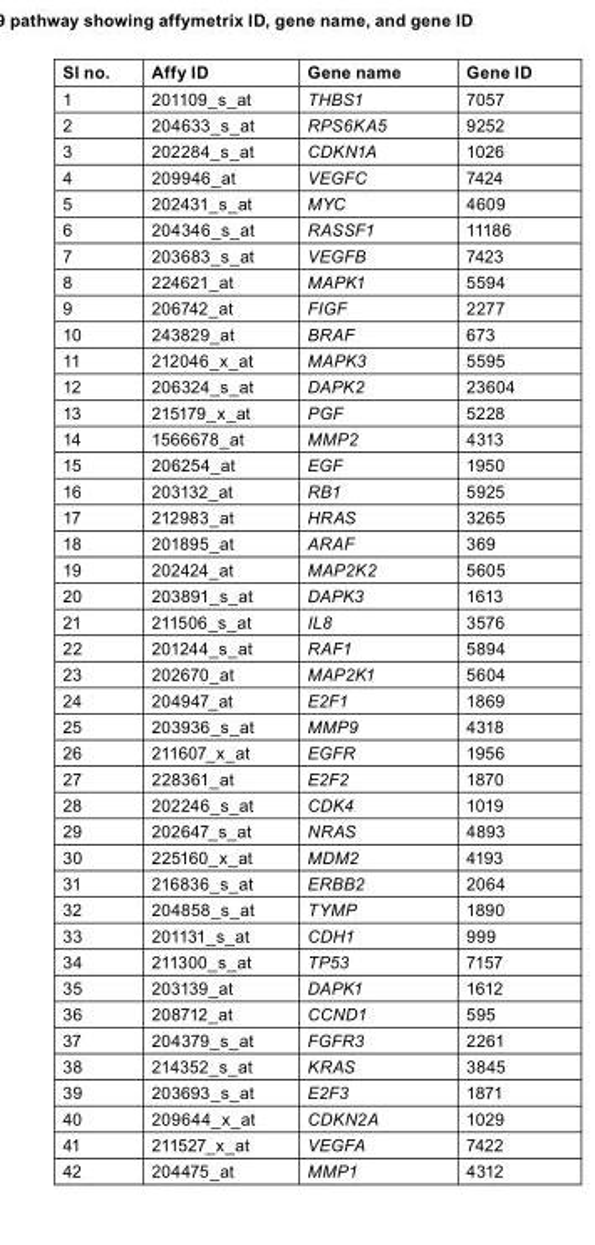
<table><thead><tr><td>Sl no.</td><td>Affy ID</td><td>Gene name</td><td>Gene ID</td></tr></thead><tbody><tr><td>1</td><td>201109_s_at</td><td>THBS1</td><td>7057</td></tr><tr><td>2</td><td>204633_s_at</td><td>RPS6KA5</td><td>9252</td></tr><tr><td>3</td><td>202284_s_at</td><td>CDKN1A</td><td>1026</td></tr><tr><td>4</td><td>209946_at</td><td>VEGFC</td><td>7424</td></tr><tr><td>5</td><td>202431_s_at</td><td>MYC</td><td>4609</td></tr><tr><td>6</td><td>204346_s_at</td><td>RASSF1</td><td>11186</td></tr><tr><td>7</td><td>203683_s_at</td><td>VEGFB</td><td>7423</td></tr><tr><td>8</td><td>224621_at</td><td>MAPK1</td><td>5594</td></tr><tr><td>9</td><td>206742_at</td><td>FIGF</td><td>2277</td></tr><tr><td>10</td><td>243829_at</td><td>BRAF</td><td>673</td></tr><tr><td>11</td><td>212046_x_at</td><td>MAPK3</td><td>5595</td></tr><tr><td>12</td><td>206324_s_at</td><td>DAPK2</td><td>23604</td></tr><tr><td>13</td><td>215179_x_at</td><td>PGF</td><td>5228</td></tr><tr><td>14</td><td>1566678_at</td><td>MMP2</td><td>4313</td></tr><tr><td>15</td><td>206254_at</td><td>EGF</td><td>1950</td></tr><tr><td>16</td><td>203132_at</td><td>RB1</td><td>5925</td></tr><tr><td>17</td><td>212983_at</td><td>HRAS</td><td>3265</td></tr><tr><td>18</td><td>201895_at</td><td>ARAF</td><td>369</td></tr><tr><td>19</td><td>202424_at</td><td>MAP2K2</td><td>5605</td></tr><tr><td>20</td><td>203891_s_at</td><td>DAPK3</td><td>1613</td></tr><tr><td>21</td><td>211506_s_at</td><td>IL8</td><td>3576</td></tr><tr><td>22</td><td>201244_s_at</td><td>RAF1</td><td>5894</td></tr><tr><td>23</td><td>202670_at</td><td>MAP2K1</td><td>5604</td></tr><tr><td>24</td><td>204947_at</td><td>E2F1</td><td>1869</td></tr><tr><td>25</td><td>203936_s_at</td><td>MMP9</td><td>4318</td></tr><tr><td>26</td><td>211607_x_at</td><td>EGFR</td><td>1956</td></tr><tr><td>27</td><td>228361_at</td><td>E2F2</td><td>1870</td></tr><tr><td>28</td><td>202246_s_at</td><td>CDK4</td><td>1019</td></tr><tr><td>29</td><td>202647_s_at</td><td>NRAS</td><td>4893</td></tr><tr><td>30</td><td>225160_x_at</td><td>MDM2</td><td>4193</td></tr><tr><td>31</td><td>216836_s_at</td><td>ERBB2</td><td>2064</td></tr><tr><td>32</td><td>204858_s_at</td><td>TYMP</td><td>1890</td></tr><tr><td>33</td><td>201131_s_at</td><td>CDH1</td><td>999</td></tr><tr><td>34</td><td>211300_s_at</td><td>TP53</td><td>7157</td></tr><tr><td>35</td><td>203139_at</td><td>DAPK1</td><td>1612</td></tr><tr><td>36</td><td>208712_at</td><td>CCND1</td><td>595</td></tr><tr><td>37</td><td>204379_s_at</td><td>FGFR3</td><td>2261</td></tr><tr><td>38</td><td>214352_s_at</td><td>KRAS</td><td>3845</td></tr><tr><td>39</td><td>203693_s_at</td><td>E2F3</td><td>1871</td></tr><tr><td>40</td><td>209644_x_at</td><td>CDKN2A</td><td>1029</td></tr><tr><td>41</td><td>211527_x_at</td><td>VEGFA</td><td>7422</td></tr><tr><td>42</td><td>204475_at</td><td>MMP1</td><td>4312</td></tr></tbody></table>